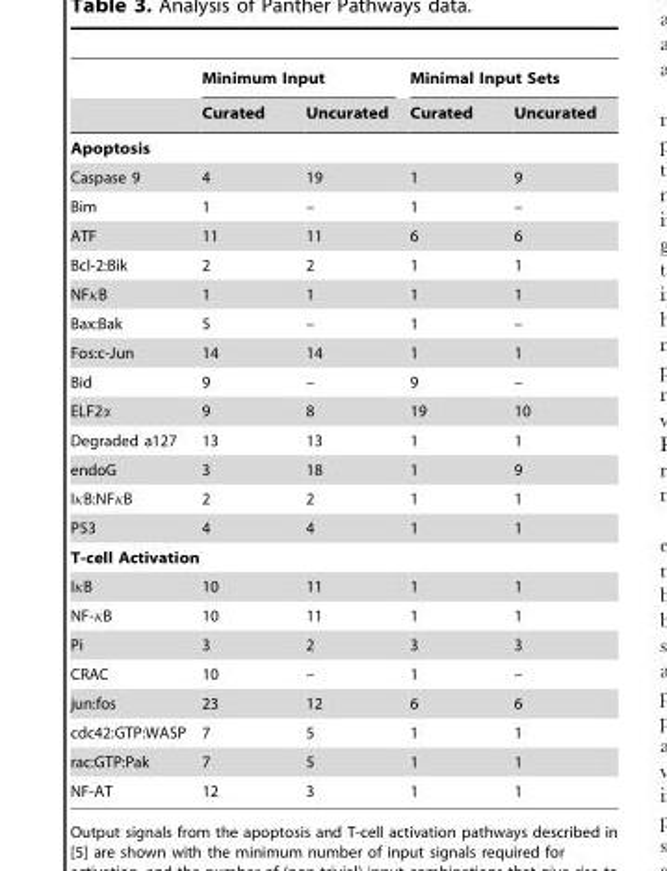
<table><thead><tr><td rowspan="2"></td><td colspan="2">Minimum Input</td><td colspan="2">Minimal Input Sets</td></tr><tr><td>Curated</td><td>Uncurated</td><td>Curated</td><td>Uncurated</td></tr></thead><tbody><tr><td colspan="5">Apoptosis</td></tr><tr><td>Caspase 9</td><td>4</td><td>19</td><td>1</td><td>9</td></tr><tr><td>Bim</td><td>1</td><td>–</td><td>1</td><td>–</td></tr><tr><td>ATF</td><td>11</td><td>11</td><td>6</td><td>6</td></tr><tr><td>Bcl-2:Bik</td><td>2</td><td>2</td><td>1</td><td>1</td></tr><tr><td>NFkB</td><td>1</td><td>1</td><td>1</td><td>1</td></tr><tr><td>Bax:Bak</td><td>5</td><td>–</td><td>1</td><td>–</td></tr><tr><td>Fos:c-Jun</td><td>14</td><td>14</td><td>1</td><td>1</td></tr><tr><td>Bid</td><td>9</td><td>–</td><td>9</td><td>–</td></tr><tr><td>ELF2α</td><td>9</td><td>8</td><td>19</td><td>10</td></tr><tr><td>Degraded a127</td><td>13</td><td>13</td><td>1</td><td>1</td></tr><tr><td>endoG</td><td>3</td><td>18</td><td>1</td><td>9</td></tr><tr><td>IkB:NFkB</td><td>2</td><td>2</td><td>1</td><td>1</td></tr><tr><td>P53</td><td>4</td><td>4</td><td>1</td><td>1</td></tr><tr><td colspan="5">T-cell Activation</td></tr><tr><td>IkB</td><td>10</td><td>11</td><td>1</td><td>1</td></tr><tr><td>NF-kB</td><td>10</td><td>11</td><td>1</td><td>1</td></tr><tr><td>Pi</td><td>3</td><td>2</td><td>3</td><td>3</td></tr><tr><td>CRAC</td><td>10</td><td>–</td><td>1</td><td>–</td></tr><tr><td>jun:fos</td><td>23</td><td>12</td><td>6</td><td>6</td></tr><tr><td>cdc42:GTP:WASP</td><td>7</td><td>5</td><td>1</td><td>1</td></tr><tr><td>rac:GTP:Pak</td><td>7</td><td>5</td><td>1</td><td>1</td></tr><tr><td>NF-AT</td><td>12</td><td>3</td><td>1</td><td>1</td></tr></tbody></table>